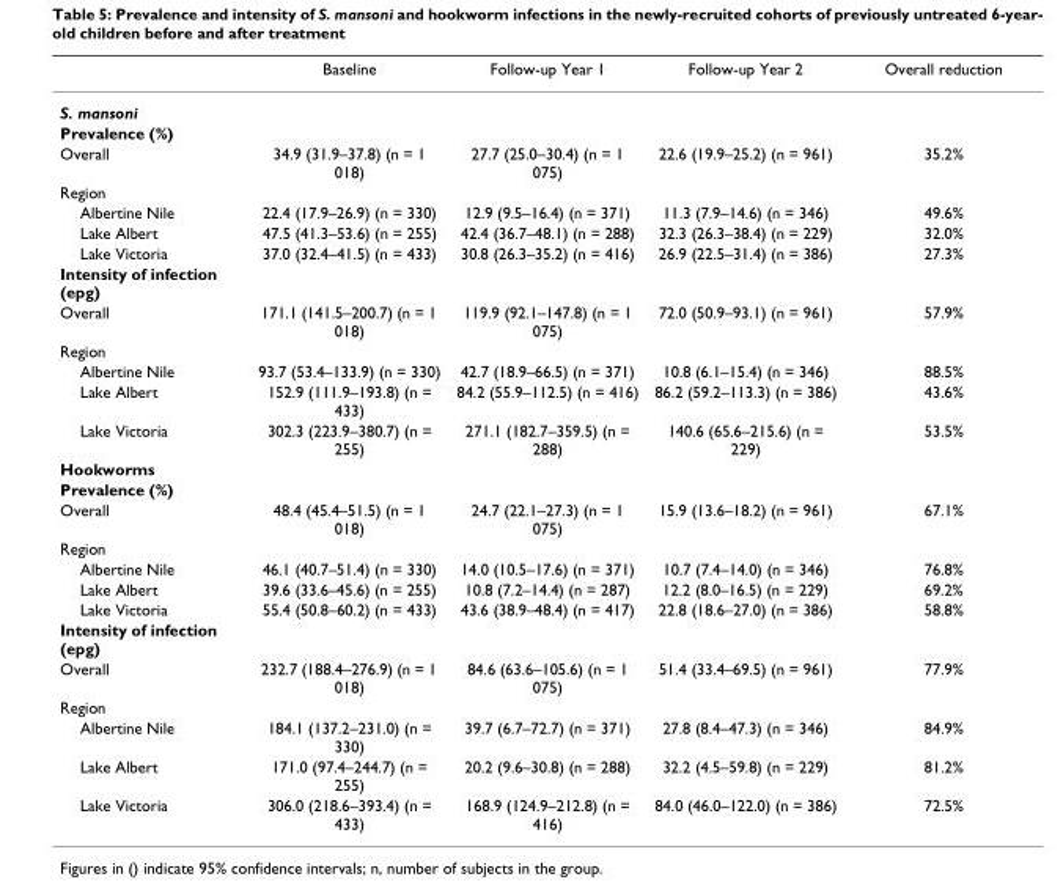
<table><thead><tr><td></td><td>Baseline</td><td>Follow-up Year 1</td><td>Follow-up Year 2</td><td>Overall reduction</td></tr></thead><tbody><tr><td colspan="5">S. mansoni</td></tr><tr><td colspan="5">Prevalence (%)</td></tr><tr><td>Overall</td><td>34.9 (31.9–37.8) (n = 1 018)</td><td>27.7 (25.0–30.4) (n = 1 075)</td><td>22.6 (19.9–25.2) (n = 961)</td><td>35.2%</td></tr><tr><td colspan="5">Region</td></tr><tr><td>Albertine Nile</td><td>22.4 (17.9–26.9) (n = 330)</td><td>12.9 (9.5–16.4) (n = 371)</td><td>11.3 (7.9–14.6) (n = 346)</td><td>49.6%</td></tr><tr><td>Lake Albert</td><td>47.5 (41.3–53.6) (n = 255)</td><td>42.4 (36.7–48.1) (n = 288)</td><td>32.3 (26.3–38.4) (n = 229)</td><td>32.0%</td></tr><tr><td>Lake Victoria</td><td>37.0 (32.4–41.5) (n = 433)</td><td>30.8 (26.3–35.2) (n = 416)</td><td>26.9 (22.5–31.4) (n = 386)</td><td>27.3%</td></tr><tr><td colspan="5">Intensity of infection (epg)</td></tr><tr><td>Overall</td><td>171.1 (141.5–200.7) (n = 1 018)</td><td>119.9 (92.1–147.8) (n = 1 075)</td><td>72.0 (50.9–93.1) (n = 961)</td><td>57.9%</td></tr><tr><td colspan="5">Region</td></tr><tr><td>Albertine Nile</td><td>93.7 (53.4–133.9) (n = 330)</td><td>42.7 (18.9–66.5) (n = 371)</td><td>10.8 (6.1–15.4) (n = 346)</td><td>88.5%</td></tr><tr><td>Lake Albert</td><td>152.9 (111.9–193.8) (n = 433)</td><td>84.2 (55.9–112.5) (n = 416)</td><td>86.2 (59.2–113.3) (n = 386)</td><td>43.6%</td></tr><tr><td>Lake Victoria</td><td>302.3 (223.9–380.7) (n = 255)</td><td>271.1 (182.7–359.5) (n = 288)</td><td>140.6 (65.6–215.6) (n = 229)</td><td>53.5%</td></tr><tr><td colspan="5">Hookworms</td></tr><tr><td colspan="5">Prevalence (%)</td></tr><tr><td>Overall</td><td>48.4 (45.4–51.5) (n = 1 018)</td><td>24.7 (22.1–27.3) (n = 1 075)</td><td>15.9 (13.6–18.2) (n = 961)</td><td>67.1%</td></tr><tr><td colspan="5">Region</td></tr><tr><td>Albertine Nile</td><td>46.1 (40.7–51.4) (n = 330)</td><td>14.0 (10.5–17.6) (n = 371)</td><td>10.7 (7.4–14.0) (n = 346)</td><td>76.8%</td></tr><tr><td>Lake Albert</td><td>39.6 (33.6–45.6) (n = 255)</td><td>10.8 (7.2–14.4) (n = 287)</td><td>12.2 (8.0–16.5) (n = 229)</td><td>69.2%</td></tr><tr><td>Lake Victoria</td><td>55.4 (50.8–60.2) (n = 433)</td><td>43.6 (38.9–48.4) (n = 417)</td><td>22.8 (18.6–27.0) (n = 386)</td><td>58.8%</td></tr><tr><td colspan="5">Intensity of infection (epg)</td></tr><tr><td>Overall</td><td>232.7 (188.4–276.9) (n = 1 018)</td><td>84.6 (63.6–105.6) (n = 1 075)</td><td>51.4 (33.4–69.5) (n = 961)</td><td>77.9%</td></tr><tr><td colspan="5">Region</td></tr><tr><td>Albertine Nile</td><td>184.1 (137.2–231.0) (n = 330)</td><td>39.7 (6.7–72.7) (n = 371)</td><td>27.8 (8.4–47.3) (n = 346)</td><td>84.9%</td></tr><tr><td>Lake Albert</td><td>171.0 (97.4–244.7) (n = 255)</td><td>20.2 (9.6–30.8) (n = 288)</td><td>32.2 (4.5–59.8) (n = 229)</td><td>81.2%</td></tr><tr><td>Lake Victoria</td><td>306.0 (218.6–393.4) (n = 433)</td><td>168.9 (124.9–212.8) (n = 416)</td><td>84.0 (46.0–122.0) (n = 386)</td><td>72.5%</td></tr></tbody></table>